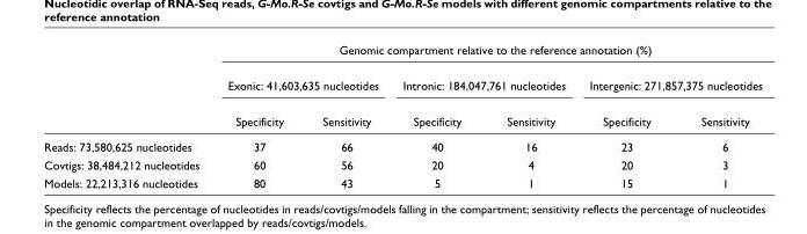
<table><thead><tr><td rowspan="3"></td><td colspan="6">Genomic compartment relative to the reference annotation (%)</td></tr><tr><td colspan="2">Exonic: 41,603,635 nucleotides</td><td colspan="2">Intronic: 184,047,761 nucleotides</td><td colspan="2">Intergenic: 271,857,375 nucleotides</td></tr><tr><td>Specificity</td><td>Sensitivity</td><td>Specificity</td><td>Sensitivity</td><td>Specificity</td><td>Sensitivity</td></tr></thead><tbody><tr><td>Reads: 73,580,625 nucleotides</td><td>37</td><td>66</td><td>40</td><td>16</td><td>23</td><td>6</td></tr><tr><td>Covtigs: 38,484,212 nucleotides</td><td>60</td><td>56</td><td>20</td><td>4</td><td>20</td><td>3</td></tr><tr><td>Models: 22,213,316 nucleotides</td><td>80</td><td>43</td><td>5</td><td>1</td><td>15</td><td>1</td></tr></tbody></table>